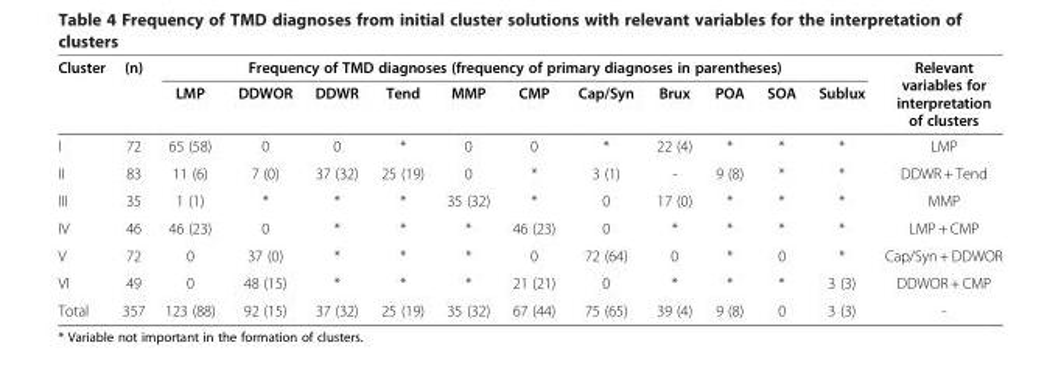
<table><thead><tr><td rowspan="2">Cluster</td><td rowspan="2">(n)</td><td colspan="11">Frequency of TMD diagnoses (frequency of primary diagnoses in parentheses)</td><td rowspan="2">Relevant variables for interpretation of clusters</td></tr><tr><td>LMP</td><td>DDWOR</td><td>DDWR</td><td>Tend</td><td>MMP</td><td>CMP</td><td>Cap/Syn</td><td>Brux</td><td>POA</td><td>SOA</td><td>Sublux</td></tr></thead><tbody><tr><td>I</td><td>72</td><td>65 (58)</td><td>0</td><td>0</td><td>*</td><td>0</td><td>0</td><td>*</td><td>22 (4)</td><td>*</td><td>*</td><td>*</td><td>LMP</td></tr><tr><td>II</td><td>83</td><td>11 (6)</td><td>7 (0)</td><td>37 (32)</td><td>25 (19)</td><td>0</td><td>*</td><td>3 (1)</td><td>-</td><td>9 (8)</td><td>*</td><td>*</td><td>DDWR + Tend</td></tr><tr><td>III</td><td>35</td><td>1 (1)</td><td>*</td><td>*</td><td>*</td><td>35 (32)</td><td>*</td><td>0</td><td>17 (0)</td><td>*</td><td>*</td><td>*</td><td>MMP</td></tr><tr><td>IV</td><td>46</td><td>46 (23)</td><td>0</td><td>*</td><td>*</td><td>*</td><td>46 (23)</td><td>0</td><td>*</td><td>*</td><td>*</td><td>*</td><td>LMP + CMP</td></tr><tr><td>V</td><td>72</td><td>0</td><td>37 (0)</td><td>*</td><td>*</td><td>*</td><td>0</td><td>72 (64)</td><td>0</td><td>*</td><td>0</td><td>*</td><td>Cap/Syn + DDWOR</td></tr><tr><td>VI</td><td>49</td><td>0</td><td>48 (15)</td><td>*</td><td>*</td><td>*</td><td>21 (21)</td><td>0</td><td>*</td><td>*</td><td>*</td><td>3 (3)</td><td>DDWOR + CMP</td></tr><tr><td>Total</td><td>357</td><td>123 (88)</td><td>92 (15)</td><td>37 (32)</td><td>25 (19)</td><td>35 (32)</td><td>67 (44)</td><td>75 (65)</td><td>39 (4)</td><td>9 (8)</td><td>0</td><td>3 (3)</td><td>-</td></tr></tbody></table>